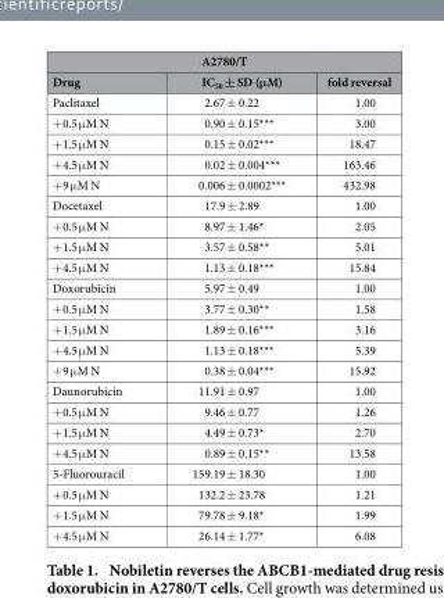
<table><thead><tr><td colspan="3">A2780/T</td></tr><tr><td>Drug</td><td>IC<sub>50</sub> ± SD (μM)</td><td>fold reversal</td></tr></thead><tbody><tr><td>Paclitaxel</td><td>2.67 ± 0.22</td><td>1.00</td></tr><tr><td>+ 0.5 μ M N</td><td>0.90 ± 0.15***</td><td>3.00</td></tr><tr><td>+ 1.5 μ M N</td><td>0.15 ± 0.02***</td><td>18.47</td></tr><tr><td>+ 4.5 μ M N</td><td>0.02 ± 0.004***</td><td>163.46</td></tr><tr><td>+ 9 μ M N</td><td>0.006 ± 0.0002***</td><td>432.98</td></tr><tr><td>Docetaxel</td><td>17.9 ± 2.89</td><td>1.00</td></tr><tr><td>+ 0.5 μ M N</td><td>8.97 ± 1.46*</td><td>2.05</td></tr><tr><td>+ 1.5 μ M N</td><td>3.57 ± 0.58**</td><td>5.01</td></tr><tr><td>+ 4.5 μ M N</td><td>1.13 ± 0.18***</td><td>15.84</td></tr><tr><td>Doxorubicin</td><td>5.97 ± 0.49</td><td>1.00</td></tr><tr><td>+ 0.5 μ M N</td><td>3.77 ± 0.30**</td><td>1.58</td></tr><tr><td>+ 1.5 μ M N</td><td>1.89 ± 0.16***</td><td>3.16</td></tr><tr><td>+ 4.5 μ M N</td><td>1.13 ± 0.18***</td><td>5.39</td></tr><tr><td>+ 9 μ M N</td><td>0.38 ± 0.04***</td><td>15.92</td></tr><tr><td>Daunorubicin</td><td>11.91 ± 0.97</td><td>1.00</td></tr><tr><td>+ 0.5 μ M N</td><td>9.46 ± 0.77</td><td>1.26</td></tr><tr><td>+ 1.5 μ M N</td><td>4.49 ± 0.73*</td><td>2.70</td></tr><tr><td>+ 4.5 μ M N</td><td>0.89 ± 0.15**</td><td>13.58</td></tr><tr><td>5-Fluorouracil</td><td>159.19 ± 18.30</td><td>1.00</td></tr><tr><td>+ 0.5 μ M N</td><td>132.2 ± 23.78</td><td>1.21</td></tr><tr><td>+ 1.5 μ M N</td><td>79.78 ± 9.18*</td><td>1.99</td></tr><tr><td>+ 4.5 μ M N</td><td>26.14 ± 1.77*</td><td>6.08</td></tr></tbody></table>